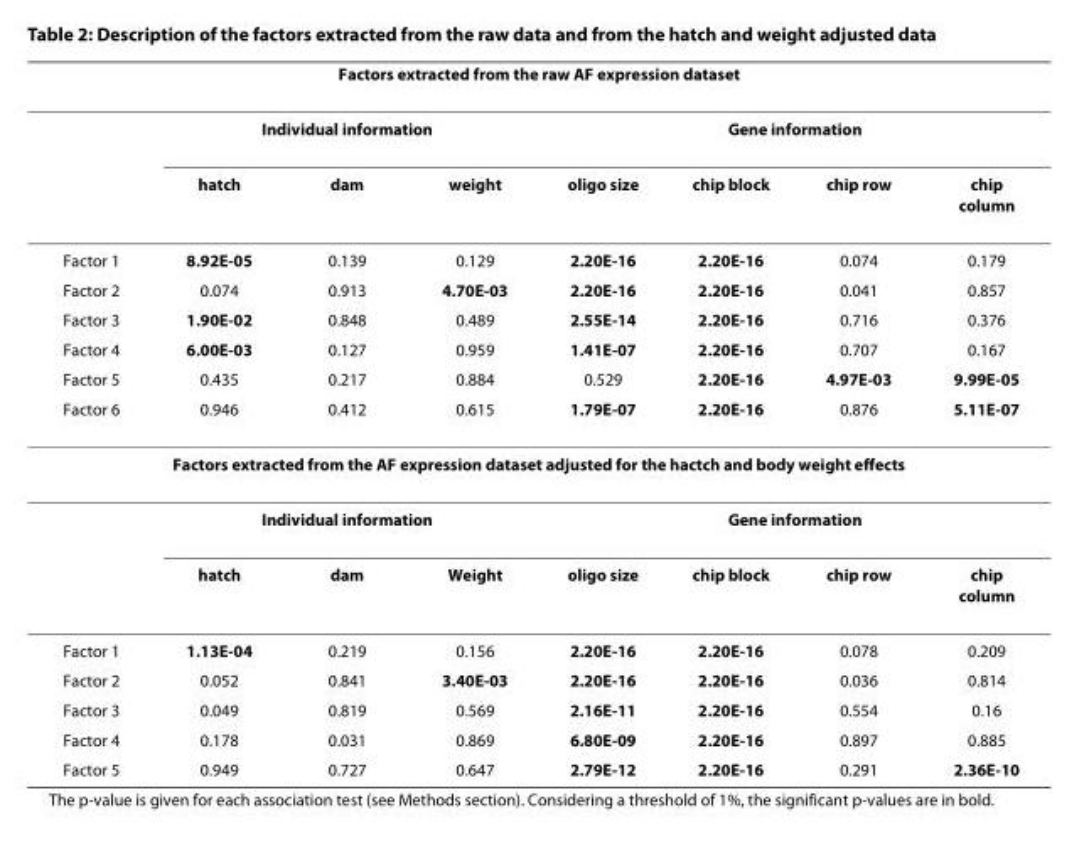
<table><thead><tr><td colspan="8">Factors extracted from the raw AF expression dataset</td></tr><tr><td rowspan="2"></td><td colspan="3">Individual information</td><td colspan="4">Gene information</td></tr><tr><td>hatch</td><td>dam</td><td>weight</td><td>oligo size</td><td>chip block</td><td>chip row</td><td>chip column</td></tr></thead><tbody><tr><td>Factor 1</td><td>8.92E-05</td><td>0.139</td><td>0.129</td><td>2.20E-16</td><td>2.20E-16</td><td>0.074</td><td>0.179</td></tr><tr><td>Factor 2</td><td>0.074</td><td>0.913</td><td>4.70E-03</td><td>2.20E-16</td><td>2.20E-16</td><td>0.041</td><td>0.857</td></tr><tr><td>Factor 3</td><td>1.90E-02</td><td>0.848</td><td>0.489</td><td>2.55E-14</td><td>2.20E-16</td><td>0.716</td><td>0.376</td></tr><tr><td>Factor 4</td><td>6.00E-03</td><td>0.127</td><td>0.959</td><td>1.41E-07</td><td>2.20E-16</td><td>0.707</td><td>0.167</td></tr><tr><td>Factor 5</td><td>0.435</td><td>0.217</td><td>0.884</td><td>0.529</td><td>2.20E-16</td><td>4.97E-03</td><td>9.99E-05</td></tr><tr><td>Factor 6</td><td>0.946</td><td>0.412</td><td>0.615</td><td>1.79E-07</td><td>2.20E-16</td><td>0.876</td><td>5.11E-07</td></tr><tr><td colspan="8">Factors extracted from the AF expression dataset adjusted for the hactch and body weight effects</td></tr><tr><td></td><td colspan="3">Individual information</td><td colspan="4">Gene information</td></tr><tr><td></td><td>hatch</td><td>dam</td><td>Weight</td><td>oligo size</td><td>chip block</td><td>chip row</td><td>chip column</td></tr><tr><td>Factor 1</td><td>1.13E-04</td><td>0.219</td><td>0.156</td><td>2.20E-16</td><td>2.20E-16</td><td>0.078</td><td>0.209</td></tr><tr><td>Factor 2</td><td>0.052</td><td>0.841</td><td>3.40E-03</td><td>2.20E-16</td><td>2.20E-16</td><td>0.036</td><td>0.814</td></tr><tr><td>Factor 3</td><td>0.049</td><td>0.819</td><td>0.569</td><td>2.16E-11</td><td>2.20E-16</td><td>0.554</td><td>0.16</td></tr><tr><td>Factor 4</td><td>0.178</td><td>0.031</td><td>0.869</td><td>6.80E-09</td><td>2.20E-16</td><td>0.897</td><td>0.885</td></tr><tr><td>Factor 5</td><td>0.949</td><td>0.727</td><td>0.647</td><td>2.79E-12</td><td>2.20E-16</td><td>0.291</td><td>2.36E-10</td></tr></tbody></table>